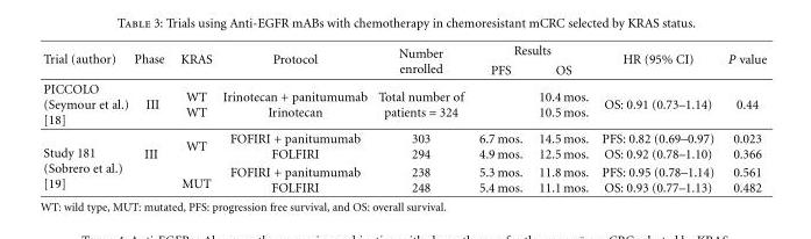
<table><thead><tr><td rowspan="2">Trial (author)</td><td rowspan="2">Phase</td><td rowspan="2">KRAS</td><td rowspan="2">Protocol</td><td rowspan="2">Number enrolled</td><td colspan="2">Results</td><td rowspan="2">HR (95% CI)</td><td rowspan="2">P value</td></tr><tr><td>PFS</td><td>OS</td></tr></thead><tbody><tr><td>PICCOLO (Seymour et al.) [18]</td><td>III</td><td>WT WT</td><td>Irinotecan + panitumumab Irinotecan</td><td>Total number of patients = 324</td><td></td><td>10.4 mos. 10.5 mos.</td><td>OS: 0.91 (0.73–1.14)</td><td>0.44</td></tr><tr><td rowspan="2">Study 181 (Sobrero et al.) [19]</td><td rowspan="2">III</td><td>WT</td><td>FOFIRI + panitumumab FOLFIRI</td><td>303 294</td><td>6.7 mos. 4.9 mos.</td><td>14.5 mos. 12.5 mos.</td><td>PFS: 0.82 (0.69–0.97) OS: 0.92 (0.78–1.10)</td><td>0.023 0.366</td></tr><tr><td>MUT</td><td>FOFIRI + panitumumab FOLFIRI</td><td>238 248</td><td>5.3 mos. 5.4 mos.</td><td>11.8 mos. 11.1 mos.</td><td>PFS: 0.95 (0.78–1.14) OS: 0.93 (0.77–1.13)</td><td>0.561 0.482</td></tr></tbody></table>